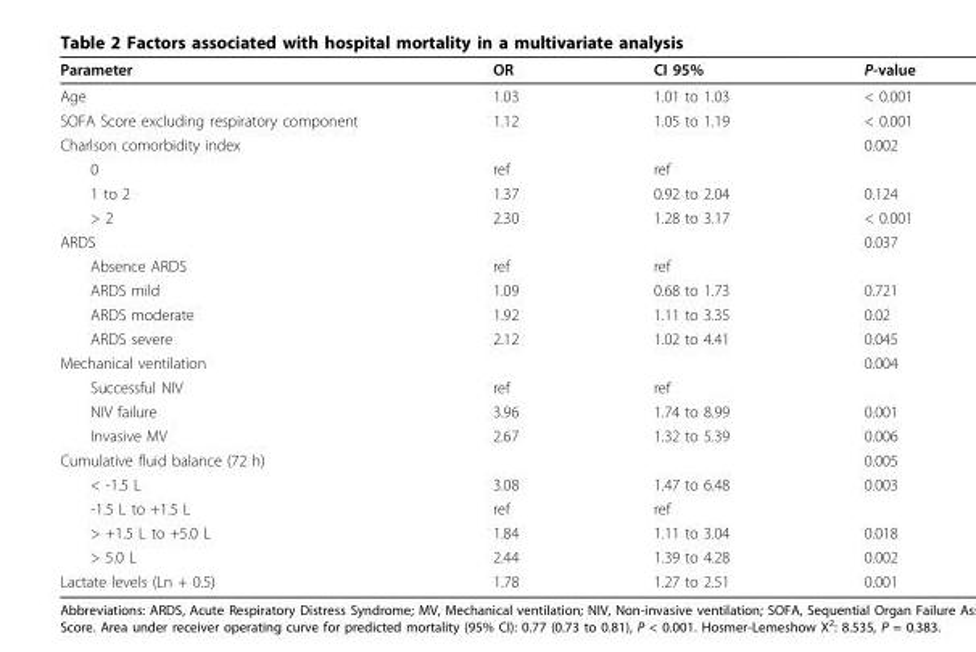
<table><thead><tr><td>Parameter</td><td>OR</td><td>CI 95%</td><td>P-value</td></tr></thead><tbody><tr><td>Age</td><td>1.03</td><td>1.01 to 1.03</td><td>&lt; 0.001</td></tr><tr><td>SOFA Score excluding respiratory component</td><td>1.12</td><td>1.05 to 1.19</td><td>&lt; 0.001</td></tr><tr><td>Charlson comorbidity index</td><td></td><td></td><td>0.002</td></tr><tr><td>0</td><td>ref</td><td>ref</td><td></td></tr><tr><td>1 to 2</td><td>1.37</td><td>0.92 to 2.04</td><td>0.124</td></tr><tr><td>&gt; 2</td><td>2.30</td><td>1.28 to 3.17</td><td>&lt; 0.001</td></tr><tr><td>ARDS</td><td></td><td></td><td>0.037</td></tr><tr><td>Absence ARDS</td><td>ref</td><td>ref</td><td></td></tr><tr><td>ARDS mild</td><td>1.09</td><td>0.68 to 1.73</td><td>0.721</td></tr><tr><td>ARDS moderate</td><td>1.92</td><td>1.11 to 3.35</td><td>0.02</td></tr><tr><td>ARDS severe</td><td>2.12</td><td>1.02 to 4.41</td><td>0.045</td></tr><tr><td>Mechanical ventilation</td><td></td><td></td><td>0.004</td></tr><tr><td>Successful NIV</td><td>ref</td><td>ref</td><td></td></tr><tr><td>NIV failure</td><td>3.96</td><td>1.74 to 8.99</td><td>0.001</td></tr><tr><td>Invasive MV</td><td>2.67</td><td>1.32 to 5.39</td><td>0.006</td></tr><tr><td>Cumulative fluid balance (72 h)</td><td></td><td></td><td>0.005</td></tr><tr><td>&lt; -1.5 L</td><td>3.08</td><td>1.47 to 6.48</td><td>0.003</td></tr><tr><td>-1.5 L to +1.5 L</td><td>ref</td><td>ref</td><td></td></tr><tr><td>&gt; +1.5 L to +5.0 L</td><td>1.84</td><td>1.11 to 3.04</td><td>0.018</td></tr><tr><td>&gt; 5.0 L</td><td>2.44</td><td>1.39 to 4.28</td><td>0.002</td></tr><tr><td>Lactate levels (Ln + 0.5)</td><td>1.78</td><td>1.27 to 2.51</td><td>0.001</td></tr></tbody></table>